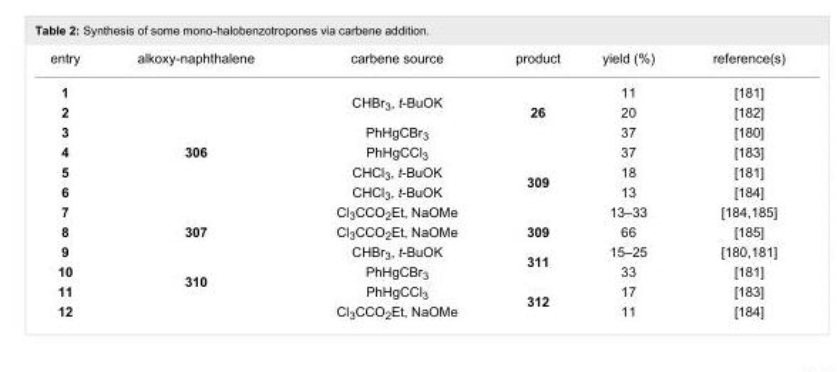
<table><tbody><tr><td>entry</td><td>alkoxy-naphthalene</td><td>carbene source</td><td>product</td><td>yield (%)</td><td>reference(s)</td></tr><tr><td>1</td><td rowspan="7">306</td><td rowspan="2">CHBr<sub>3</sub>, t-BuOK</td><td rowspan="3">26</td><td>11</td><td>[181]</td></tr><tr><td>2</td><td>20</td><td>[182]</td></tr><tr><td>3</td><td>PhHgCBr<sub>3</sub></td><td>37</td><td>[180]</td></tr><tr><td>4</td><td>PhHgCCl<sub>3</sub></td><td rowspan="4">309</td><td>37</td><td>[183]</td></tr><tr><td>5</td><td>CHCl<sub>3</sub>, t-BuOK</td><td>18</td><td>[181]</td></tr><tr><td>6</td><td>CHCl<sub>3</sub>, t-BuOK</td><td>13</td><td>[184]</td></tr><tr><td>7</td><td>Cl<sub>3</sub>CCO<sub>2</sub>Et, NaOMe</td><td>13–33</td><td>[184–185]</td></tr><tr><td>8</td><td>307</td><td>Cl<sub>3</sub>CCO<sub>2</sub>Et, NaOMe</td><td>309</td><td>66</td><td>[185]</td></tr><tr><td>9</td><td rowspan="4">310</td><td>CHBr<sub>3</sub>, t-BuOK</td><td rowspan="2">311</td><td>15–25</td><td>[180–181]</td></tr><tr><td>10</td><td>PhHgCBr<sub>3</sub></td><td>33</td><td>[181]</td></tr><tr><td>11</td><td>PhHgCCl<sub>3</sub></td><td rowspan="2">312</td><td>17</td><td>[183]</td></tr><tr><td>12</td><td>Cl<sub>3</sub>CCO<sub>2</sub>Et, NaOMe</td><td>11</td><td>[184]</td></tr></tbody></table>